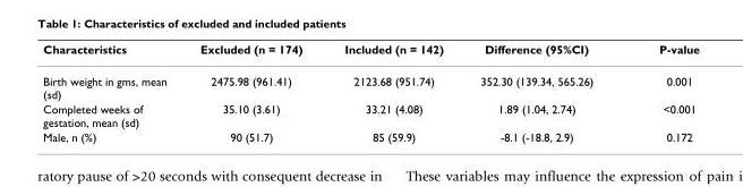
<table><thead><tr><td>Characteristics</td><td>Excluded (n = 174)</td><td>Included (n = 142)</td><td>Difference (95%CI)</td><td>P-value</td></tr></thead><tbody><tr><td>Birth weight in gms, mean (sd)</td><td>2475.98 (961.41)</td><td>2123.68 (951.74)</td><td>352.30 (139.34, 565.26)</td><td>0.001</td></tr><tr><td>Completed weeks of gestation, mean (sd)</td><td>35.10 (3.61)</td><td>33.21 (4.08)</td><td>1.89 (1.04, 2.74)</td><td>&lt;0.001</td></tr><tr><td>Male, n (%)</td><td>90 (51.7)</td><td>85 (59.9)</td><td>-8.1 (-18.8, 2.9)</td><td>0.172</td></tr></tbody></table>